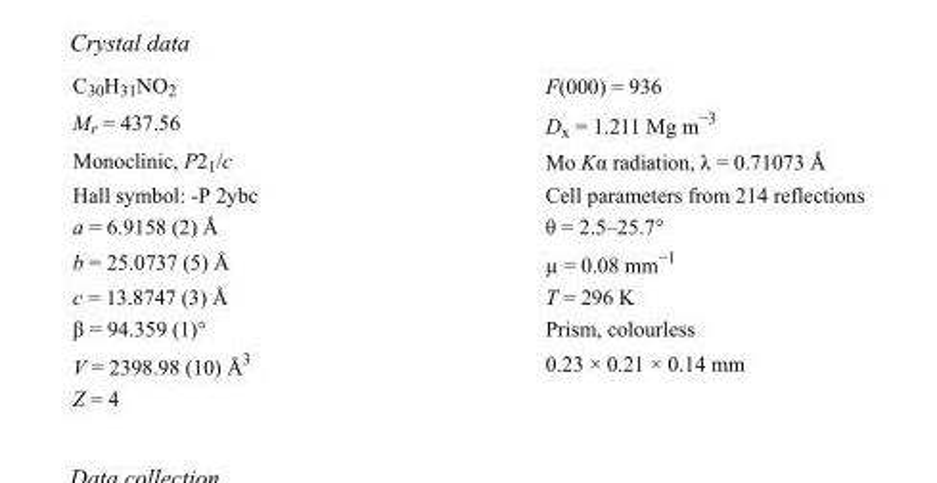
<table><tbody><tr><td>C<sub>30</sub>H<sub>31</sub>NO<sub>2</sub></td><td>F(000) = 936</td></tr><tr><td>M<sub>r</sub> = 437.56</td><td>D<sub>x</sub> = 1.211 Mg m<sup>−3</sup></td></tr><tr><td>Monoclinic, P2<sub>1</sub>/c</td><td>Mo Kα radiation, λ = 0.71073 Å</td></tr><tr><td>Hall symbol: -P 2ybc</td><td>Cell parameters from 214 reflections</td></tr><tr><td>a = 6.9158 (2) Å</td><td>θ = 2.5–25.7°</td></tr><tr><td>b = 25.0737 (5) Å</td><td>µ = 0.08 mm<sup>−1</sup></td></tr><tr><td>c = 13.8747 (3) Å</td><td>T = 296 K</td></tr><tr><td>β = 94.359 (1)°</td><td>Prism, colourless</td></tr><tr><td>V = 2398.98 (10) Å<sup>3</sup></td><td>0.23 × 0.21 × 0.14 mm</td></tr><tr><td>Z = 4</td><td></td></tr></tbody></table>